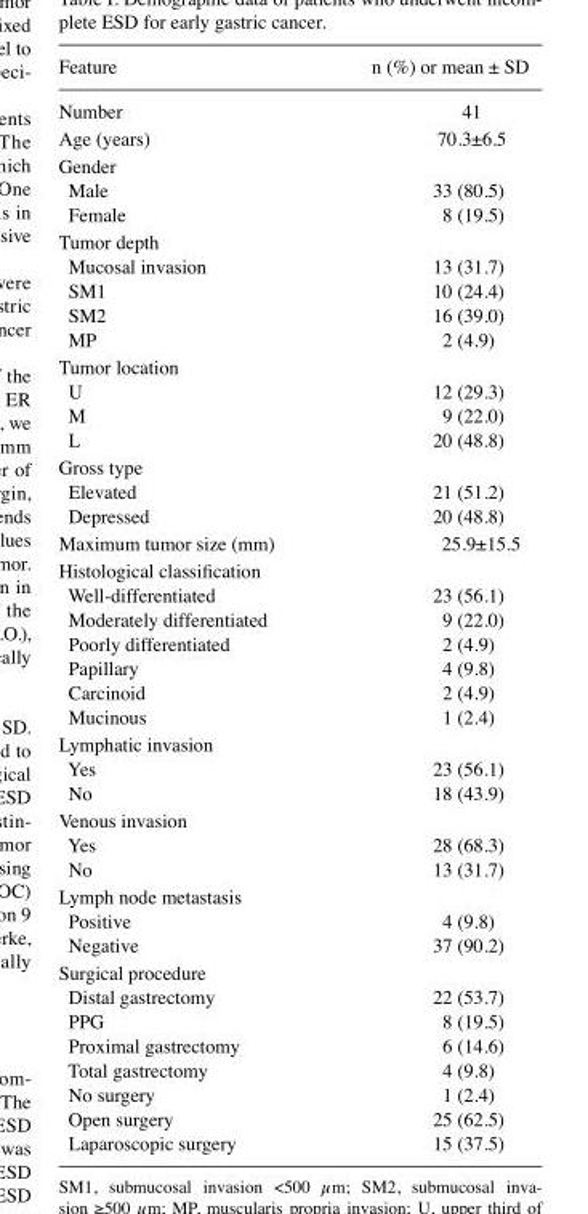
<table><thead><tr><td>Feature</td><td>n (%) or mean ± SD</td></tr></thead><tbody><tr><td>Number</td><td>41</td></tr><tr><td>Age (years)</td><td>70.3±6.5</td></tr><tr><td colspan="2">Gender</td></tr><tr><td>Male</td><td>33 (80.5)</td></tr><tr><td>Female</td><td>8 (19.5)</td></tr><tr><td colspan="2">Tumor depth</td></tr><tr><td>Mucosal invasion</td><td>13 (31.7)</td></tr><tr><td>SM1</td><td>10 (24.4)</td></tr><tr><td>SM2</td><td>16 (39.0)</td></tr><tr><td>MP</td><td>2 (4.9)</td></tr><tr><td colspan="2">Tumor location</td></tr><tr><td>U</td><td>12 (29.3)</td></tr><tr><td>M</td><td>9 (22.0)</td></tr><tr><td>L</td><td>20 (48.8)</td></tr><tr><td colspan="2">Gross type</td></tr><tr><td>Elevated</td><td>21 (51.2)</td></tr><tr><td>Depressed</td><td>20 (48.8)</td></tr><tr><td>Maximum tumor size (mm)</td><td>25.9±15.5</td></tr><tr><td colspan="2">Histological classification</td></tr><tr><td>Well-differentiated</td><td>23 (56.1)</td></tr><tr><td>Moderately differentiated</td><td>9 (22.0)</td></tr><tr><td>Poorly differentiated</td><td>2 (4.9)</td></tr><tr><td>Papillary</td><td>4 (9.8)</td></tr><tr><td>Carcinoid</td><td>2 (4.9)</td></tr><tr><td>Mucinous</td><td>1 (2.4)</td></tr><tr><td colspan="2">Lymphatic invasion</td></tr><tr><td>Yes</td><td>23 (56.1)</td></tr><tr><td>No</td><td>18 (43.9)</td></tr><tr><td colspan="2">Venous invasion</td></tr><tr><td>Yes</td><td>28 (68.3)</td></tr><tr><td>No</td><td>13 (31.7)</td></tr><tr><td colspan="2">Lymph node metastasis</td></tr><tr><td>Positive</td><td>4 (9.8)</td></tr><tr><td>Negative</td><td>37 (90.2)</td></tr><tr><td colspan="2">Surgical procedure</td></tr><tr><td>Distal gastrectomy</td><td>22 (53.7)</td></tr><tr><td>PPG</td><td>8 (19.5)</td></tr><tr><td>Proximal gastrectomy</td><td>6 (14.6)</td></tr><tr><td>Total gastrectomy</td><td>4 (9.8)</td></tr><tr><td>No surgery</td><td>1 (2.4)</td></tr><tr><td>Open surgery</td><td>25 (62.5)</td></tr><tr><td>Laparoscopic surgery</td><td>15 (37.5)</td></tr></tbody></table>